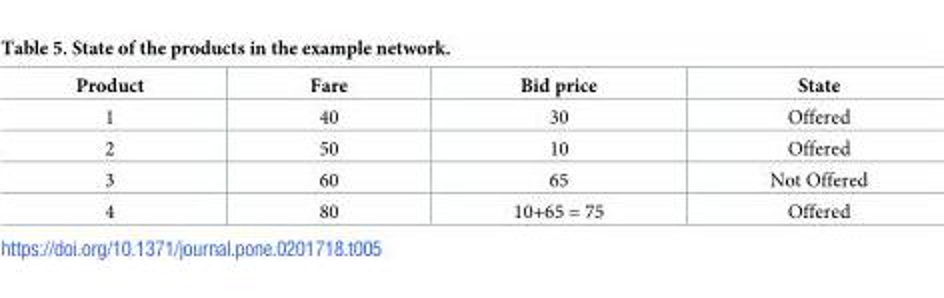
<table><thead><tr><td>Product</td><td>Fare</td><td>Bid price</td><td>State</td></tr></thead><tbody><tr><td>1</td><td>40</td><td>30</td><td>Offered</td></tr><tr><td>2</td><td>50</td><td>10</td><td>Offered</td></tr><tr><td>3</td><td>60</td><td>65</td><td>Not Offered</td></tr><tr><td>4</td><td>80</td><td>10+65 = 75</td><td>Offered</td></tr></tbody></table>